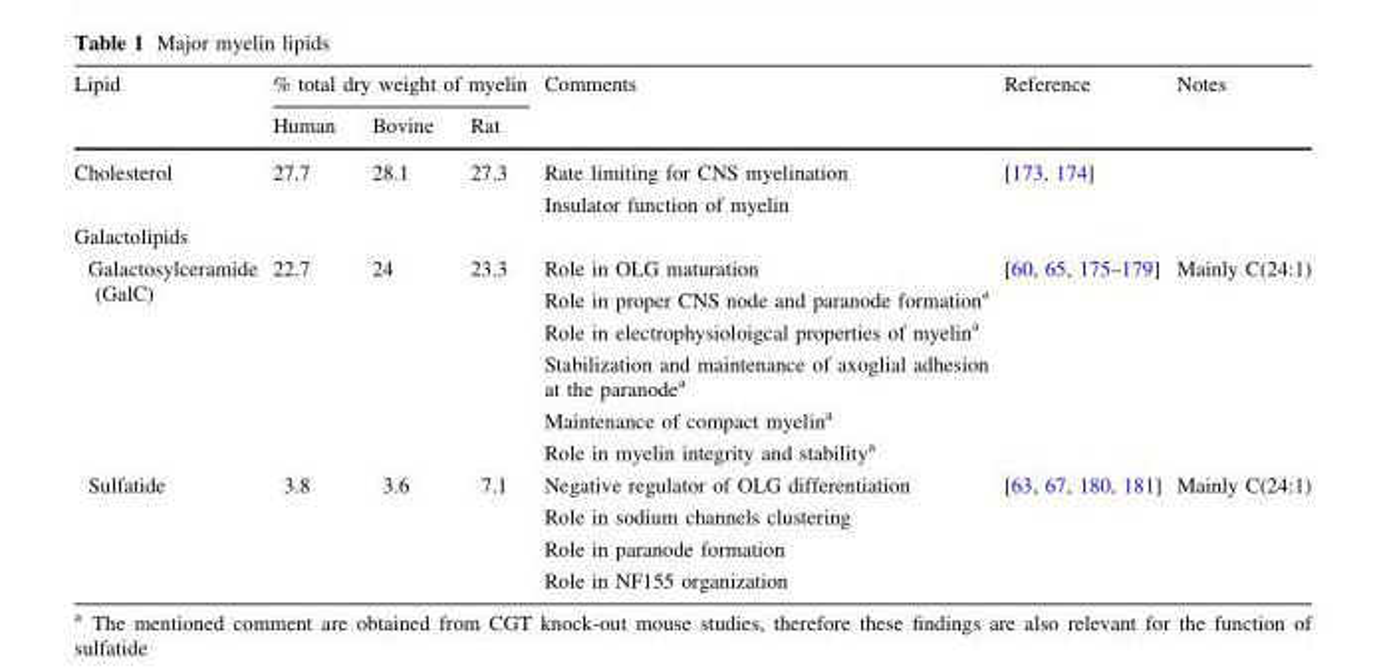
<table><thead><tr><td rowspan="2">Lipid</td><td colspan="3">% total dry weight of myelin</td><td rowspan="2">Comments</td><td rowspan="2">Reference</td><td rowspan="2">Notes</td></tr><tr><td>Human</td><td>Bovine</td><td>Rat</td></tr></thead><tbody><tr><td>Cholesterol</td><td>27.7</td><td>28.1</td><td>27.3</td><td>Rate limiting for CNS myelination Insulator function of myelin</td><td>[173, 174]</td><td></td></tr><tr><td colspan="7">Galactolipids</td></tr><tr><td>Galactosylceramide (GalC)</td><td>22.7</td><td>24</td><td>23.3</td><td>Role in OLG maturation Role in proper CNS node and paranode formation<sup>a</sup> Role in electrophysioloigcal properties of myelin<sup>a</sup> Stabilization and maintenance of axoglial adhesion at the paranode<sup>a</sup> Maintenance of compact myelin<sup>a</sup> Role in myelin integrity and stability<sup>a</sup></td><td>[60, 65, 175–179]</td><td>Mainly C(24:1)</td></tr><tr><td>Sulfatide</td><td>3.8</td><td>3.6</td><td>7.1</td><td>Negative regulator of OLG differentiation Role in sodium channels clustering Role in paranode formation Role in NF155 organization</td><td>[63, 67, 180, 181]</td><td>Mainly C(24:1)</td></tr></tbody></table>